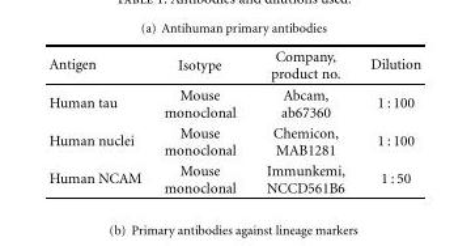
<table><thead><tr><td>Antigen</td><td>Isotype</td><td>Company, product no.</td><td>Dilution</td></tr></thead><tbody><tr><td>Human tau</td><td>Mouse monoclonal</td><td>Abcam, ab67360</td><td>1 : 100</td></tr><tr><td>Human nuclei</td><td>Mouse monoclonal</td><td>Chemicon, MAB1281</td><td>1 : 100</td></tr><tr><td>Human NCAM</td><td>Mouse monoclonal</td><td>Immunkemi, NCCD561B6</td><td>1 : 50</td></tr></tbody></table>